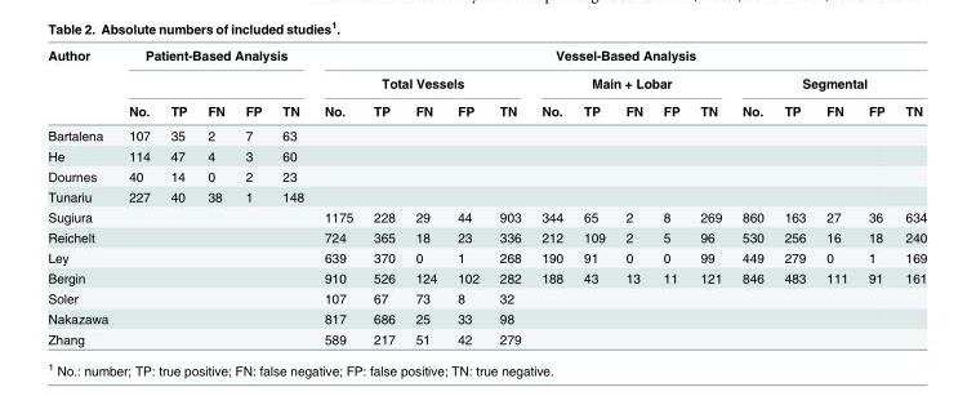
<table><thead><tr><td rowspan="3">Author</td><td colspan="5">Patient-Based Analysis</td><td colspan="15">Vessel-Based Analysis</td></tr><tr><td rowspan="2">No.</td><td rowspan="2">TP</td><td rowspan="2">FN</td><td rowspan="2">FP</td><td rowspan="2">TN</td><td colspan="5">Total Vessels</td><td colspan="5">Main + Lobar</td><td colspan="5">Segmental</td></tr><tr><td>No.</td><td>TP</td><td>FN</td><td>FP</td><td>TN</td><td>No.</td><td>TP</td><td>FN</td><td>FP</td><td>TN</td><td>No.</td><td>TP</td><td>FN</td><td>FP</td><td>TN</td></tr></thead><tbody><tr><td>Bartalena</td><td>107</td><td>35</td><td>2</td><td>7</td><td>63</td><td></td><td></td><td></td><td></td><td></td><td></td><td></td><td></td><td></td><td></td><td></td><td></td><td></td><td></td><td></td></tr><tr><td>He</td><td>114</td><td>47</td><td>4</td><td>3</td><td>60</td><td></td><td></td><td></td><td></td><td></td><td></td><td></td><td></td><td></td><td></td><td></td><td></td><td></td><td></td><td></td></tr><tr><td>Dournes</td><td>40</td><td>14</td><td>0</td><td>2</td><td>23</td><td></td><td></td><td></td><td></td><td></td><td></td><td></td><td></td><td></td><td></td><td></td><td></td><td></td><td></td><td></td></tr><tr><td>Tunariu</td><td>227</td><td>40</td><td>38</td><td>1</td><td>148</td><td></td><td></td><td></td><td></td><td></td><td></td><td></td><td></td><td></td><td></td><td></td><td></td><td></td><td></td><td></td></tr><tr><td>Sugiura</td><td></td><td></td><td></td><td></td><td></td><td>1175</td><td>228</td><td>29</td><td>44</td><td>903</td><td>344</td><td>65</td><td>2</td><td>8</td><td>269</td><td>860</td><td>163</td><td>27</td><td>36</td><td>634</td></tr><tr><td>Reichelt</td><td></td><td></td><td></td><td></td><td></td><td>724</td><td>365</td><td>18</td><td>23</td><td>336</td><td>212</td><td>109</td><td>2</td><td>5</td><td>96</td><td>530</td><td>256</td><td>16</td><td>18</td><td>240</td></tr><tr><td>Ley</td><td></td><td></td><td></td><td></td><td></td><td>639</td><td>370</td><td>0</td><td>1</td><td>268</td><td>190</td><td>91</td><td>0</td><td>0</td><td>99</td><td>449</td><td>279</td><td>0</td><td>1</td><td>169</td></tr><tr><td>Bergin</td><td></td><td></td><td></td><td></td><td></td><td>910</td><td>526</td><td>124</td><td>102</td><td>282</td><td>188</td><td>43</td><td>13</td><td>11</td><td>121</td><td>846</td><td>483</td><td>111</td><td>91</td><td>161</td></tr><tr><td>Soler</td><td></td><td></td><td></td><td></td><td></td><td>107</td><td>67</td><td>73</td><td>8</td><td>32</td><td></td><td></td><td></td><td></td><td></td><td></td><td></td><td></td><td></td><td></td></tr><tr><td>Nakazawa</td><td></td><td></td><td></td><td></td><td></td><td>817</td><td>686</td><td>25</td><td>33</td><td>98</td><td></td><td></td><td></td><td></td><td></td><td></td><td></td><td></td><td></td><td></td></tr><tr><td>Zhang</td><td></td><td></td><td></td><td></td><td></td><td>589</td><td>217</td><td>51</td><td>42</td><td>279</td><td></td><td></td><td></td><td></td><td></td><td></td><td></td><td></td><td></td><td></td></tr></tbody></table>